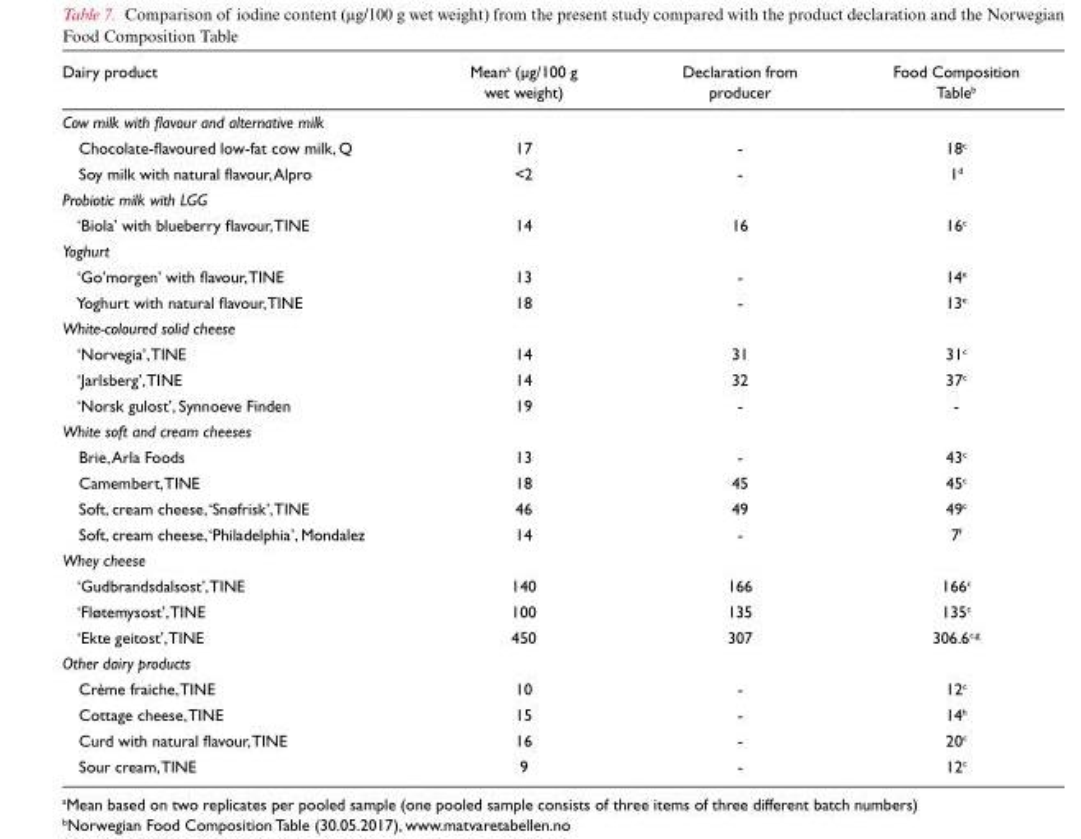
<table><thead><tr><td>Dairy product</td><td>Mean<sup>a</sup> (µg/100 g wet weight)</td><td>Declaration from producer</td><td>Food Composition Table<sup>b</sup></td></tr></thead><tbody><tr><td colspan="4">Cow milk with flavour and alternative milk</td></tr><tr><td>Chocolate-flavoured low-fat cow milk, Q</td><td>17</td><td>-</td><td>18<sup>c</sup></td></tr><tr><td>Soy milk with natural flavour, Alpro</td><td>&lt;2</td><td>-</td><td>1<sup>d</sup></td></tr><tr><td colspan="4">Probiotic milk with LGG</td></tr><tr><td>‘Biola’ with blueberry flavour, TINE</td><td>14</td><td>16</td><td>16<sup>c</sup></td></tr><tr><td colspan="4">Yoghurt</td></tr><tr><td>‘Go’morgen’ with flavour, TINE</td><td>13</td><td>-</td><td>14<sup>e</sup></td></tr><tr><td>Yoghurt with natural flavour, TINE</td><td>18</td><td>-</td><td>13<sup>e</sup></td></tr><tr><td colspan="4">White-coloured solid cheese</td></tr><tr><td>‘Norvegia’, TINE</td><td>14</td><td>31</td><td>31<sup>c</sup></td></tr><tr><td>‘Jarlsberg’, TINE</td><td>14</td><td>32</td><td>37<sup>c</sup></td></tr><tr><td>‘Norsk gulost’, Synnoeve Finden</td><td>19</td><td>-</td><td>-</td></tr><tr><td colspan="4">White soft and cream cheeses</td></tr><tr><td>Brie, Arla Foods</td><td>13</td><td>-</td><td>43<sup>c</sup></td></tr><tr><td>Camembert, TINE</td><td>18</td><td>45</td><td>45<sup>c</sup></td></tr><tr><td>Soft, cream cheese, ‘Snøfrisk’, TINE</td><td>46</td><td>49</td><td>49<sup>c</sup></td></tr><tr><td>Soft, cream cheese, ‘Philadelphia’, Mondalez</td><td>14</td><td>-</td><td>7<sup>f</sup></td></tr><tr><td colspan="4">Whey cheese</td></tr><tr><td>‘Gudbrandsdalsost’, TINE</td><td>140</td><td>166</td><td>166<sup>c</sup></td></tr><tr><td>‘Fløtemysost’, TINE</td><td>100</td><td>135</td><td>135<sup>c</sup></td></tr><tr><td>‘Ekte geitost’, TINE</td><td>450</td><td>307</td><td>306.6<sup>c</sup>,<sup>g</sup></td></tr><tr><td colspan="4">Other dairy products</td></tr><tr><td>Crème fraiche, TINE</td><td>10</td><td>-</td><td>12<sup>c</sup></td></tr><tr><td>Cottage cheese, TINE</td><td>15</td><td>-</td><td>14<sup>h</sup></td></tr><tr><td>Curd with natural flavour, TINE</td><td>16</td><td>-</td><td>20<sup>c</sup></td></tr><tr><td>Sour cream, TINE</td><td>9</td><td>-</td><td>12<sup>c</sup></td></tr></tbody></table>